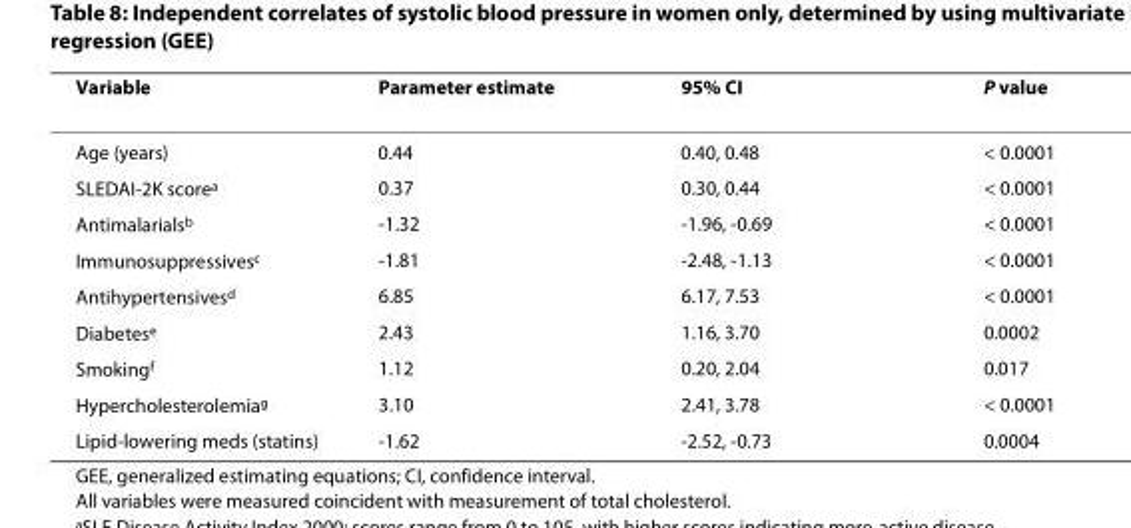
<table><thead><tr><td>Variable</td><td>Parameter estimate</td><td>95% CI</td><td>P value</td></tr></thead><tbody><tr><td>Age (years)</td><td>0.44</td><td>0.40, 0.48</td><td>&lt; 0.0001</td></tr><tr><td>SLEDAI-2K score<sup>a</sup></td><td>0.37</td><td>0.30, 0.44</td><td>&lt; 0.0001</td></tr><tr><td>Antimalarials<sup>b</sup></td><td>-1.32</td><td>-1.96, -0.69</td><td>&lt; 0.0001</td></tr><tr><td>Immunosuppressives<sup>c</sup></td><td>-1.81</td><td>-2.48, -1.13</td><td>&lt; 0.0001</td></tr><tr><td>Antihypertensives<sup>d</sup></td><td>6.85</td><td>6.17, 7.53</td><td>&lt; 0.0001</td></tr><tr><td>Diabetes<sup>e</sup></td><td>2.43</td><td>1.16, 3.70</td><td>0.0002</td></tr><tr><td>Smoking<sup>f</sup></td><td>1.12</td><td>0.20, 2.04</td><td>0.017</td></tr><tr><td>Hypercholesterolemia<sup>g</sup></td><td>3.10</td><td>2.41, 3.78</td><td>&lt; 0.0001</td></tr><tr><td>Lipid-lowering meds (statins)</td><td>-1.62</td><td>-2.52, -0.73</td><td>0.0004</td></tr></tbody></table>